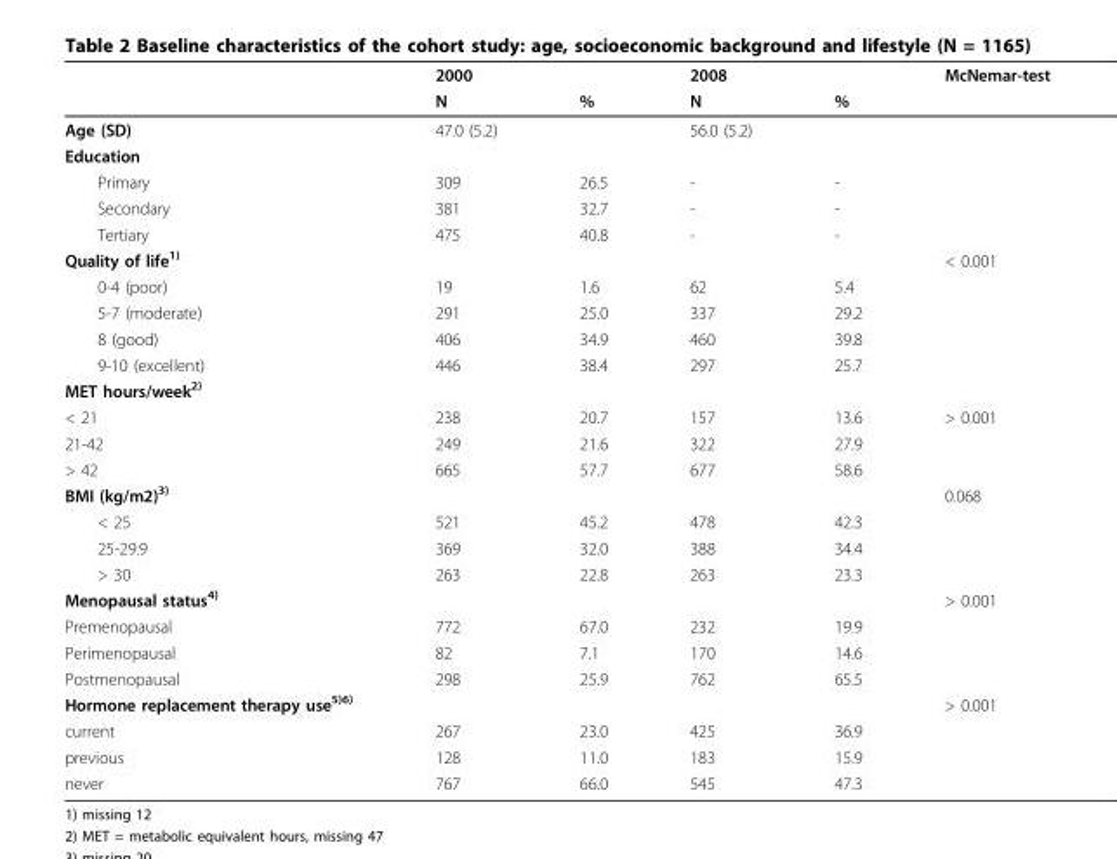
<table><thead><tr><td rowspan="2"></td><td rowspan="2">2000 N</td><td rowspan="2">%</td><td rowspan="2">2008 N</td><td rowspan="2">%</td><td rowspan="2">McNemar-test</td></tr><tr></tr></thead><tbody><tr><td>Age (SD)</td><td>47.0 (5.2)</td><td></td><td>56.0 (5.2)</td><td></td><td></td></tr><tr><td colspan="6">Education</td></tr><tr><td>Primary</td><td>309</td><td>26.5</td><td>-</td><td>-</td><td></td></tr><tr><td>Secondary</td><td>381</td><td>32.7</td><td>-</td><td>-</td><td></td></tr><tr><td>Tertiary</td><td>475</td><td>40.8</td><td>-</td><td>-</td><td></td></tr><tr><td>Quality of life<sup>1)</sup></td><td></td><td></td><td></td><td></td><td>&lt; 0.001</td></tr><tr><td>0-4 (poor)</td><td>19</td><td>1.6</td><td>62</td><td>5.4</td><td></td></tr><tr><td>5-7 (moderate)</td><td>291</td><td>25.0</td><td>337</td><td>29.2</td><td></td></tr><tr><td>8 (good)</td><td>406</td><td>34.9</td><td>460</td><td>39.8</td><td></td></tr><tr><td>9-10 (excellent)</td><td>446</td><td>38.4</td><td>297</td><td>25.7</td><td></td></tr><tr><td colspan="6">MET hours/week<sup>2)</sup></td></tr><tr><td>&lt; 21</td><td>238</td><td>20.7</td><td>157</td><td>13.6</td><td>&gt; 0.001</td></tr><tr><td>21-42</td><td>249</td><td>21.6</td><td>322</td><td>27.9</td><td></td></tr><tr><td>&gt; 42</td><td>665</td><td>57.7</td><td>677</td><td>58.6</td><td></td></tr><tr><td>BMI (kg/m2)<sup>3)</sup></td><td></td><td></td><td></td><td></td><td>0.068</td></tr><tr><td>&lt; 25</td><td>521</td><td>45.2</td><td>478</td><td>42.3</td><td></td></tr><tr><td>25-29.9</td><td>369</td><td>32.0</td><td>388</td><td>34.4</td><td></td></tr><tr><td>&gt; 30</td><td>263</td><td>22.8</td><td>263</td><td>23.3</td><td></td></tr><tr><td>Menopausal status<sup>4)</sup></td><td></td><td></td><td></td><td></td><td>&gt; 0.001</td></tr><tr><td>Premenopausal</td><td>772</td><td>67.0</td><td>232</td><td>19.9</td><td></td></tr><tr><td>Perimenopausal</td><td>82</td><td>7.1</td><td>170</td><td>14.6</td><td></td></tr><tr><td>Postmenopausal</td><td>298</td><td>25.9</td><td>762</td><td>65.5</td><td></td></tr><tr><td>Hormone replacement therapy use<sup>5)6)</sup></td><td></td><td></td><td></td><td></td><td>&gt; 0.001</td></tr><tr><td>current</td><td>267</td><td>23.0</td><td>425</td><td>36.9</td><td></td></tr><tr><td>previous</td><td>128</td><td>11.0</td><td>183</td><td>15.9</td><td></td></tr><tr><td>never</td><td>767</td><td>66.0</td><td>545</td><td>47.3</td><td></td></tr></tbody></table>